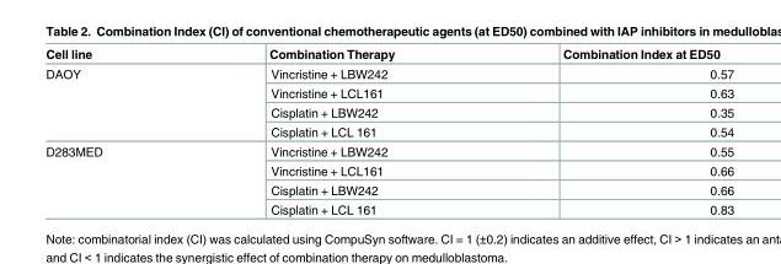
<table><thead><tr><td>Cell line</td><td>Combination Therapy</td><td>Combination Index at ED50</td></tr></thead><tbody><tr><td rowspan="4">DAOY</td><td>Vincristine + LBW242</td><td>0.57</td></tr><tr><td>Vincristine + LCL161</td><td>0.63</td></tr><tr><td>Cisplatin + LBW242</td><td>0.35</td></tr><tr><td>Cisplatin + LCL 161</td><td>0.54</td></tr><tr><td rowspan="4">D283MED</td><td>Vincristine + LBW242</td><td>0.55</td></tr><tr><td>Vincristine + LCL161</td><td>0.66</td></tr><tr><td>Cisplatin + LBW242</td><td>0.66</td></tr><tr><td>Cisplatin + LCL 161</td><td>0.83</td></tr></tbody></table>